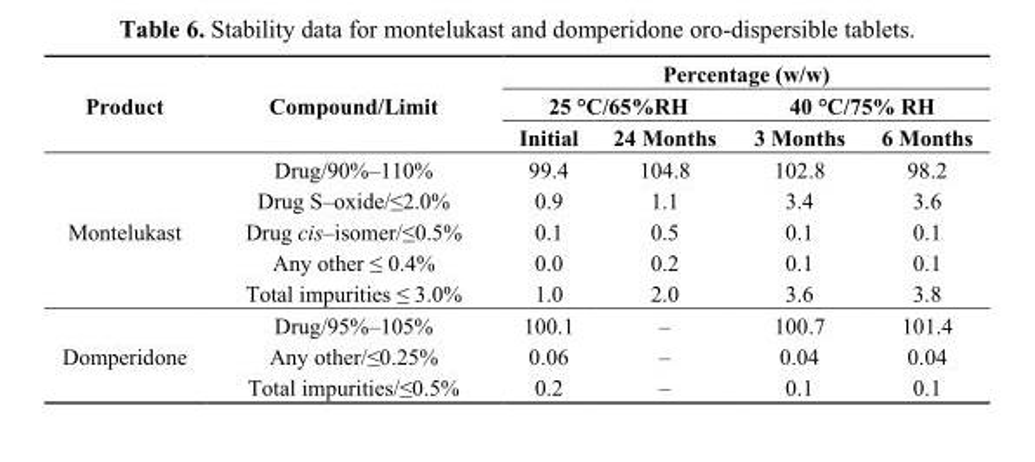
<table><thead><tr><td rowspan="3">Product</td><td rowspan="3">Compound/Limit</td><td colspan="4">Percentage (w/w)</td></tr><tr><td colspan="2">25 °C/65%RH</td><td colspan="2">40 °C/75% RH</td></tr><tr><td>Initial</td><td>24 Months</td><td>3 Months</td><td>6 Months</td></tr></thead><tbody><tr><td rowspan="5">Montelukast</td><td>Drug/90%–110%</td><td>99.4</td><td>104.8</td><td>102.8</td><td>98.2</td></tr><tr><td>Drug S–oxide/≤2.0%</td><td>0.9</td><td>1.1</td><td>3.4</td><td>3.6</td></tr><tr><td>Drug cis–isomer/≤0.5%</td><td>0.1</td><td>0.5</td><td>0.1</td><td>0.1</td></tr><tr><td>Any other ≤ 0.4%</td><td>0.0</td><td>0.2</td><td>0.1</td><td>0.1</td></tr><tr><td>Total impurities ≤ 3.0%</td><td>1.0</td><td>2.0</td><td>3.6</td><td>3.8</td></tr><tr><td rowspan="3">Domperidone</td><td>Drug/95%–105%</td><td>100.1</td><td>–</td><td>100.7</td><td>101.4</td></tr><tr><td>Any other/≤0.25%</td><td>0.06</td><td>–</td><td>0.04</td><td>0.04</td></tr><tr><td>Total impurities/≤0.5%</td><td>0.2</td><td>–</td><td>0.1</td><td>0.1</td></tr></tbody></table>